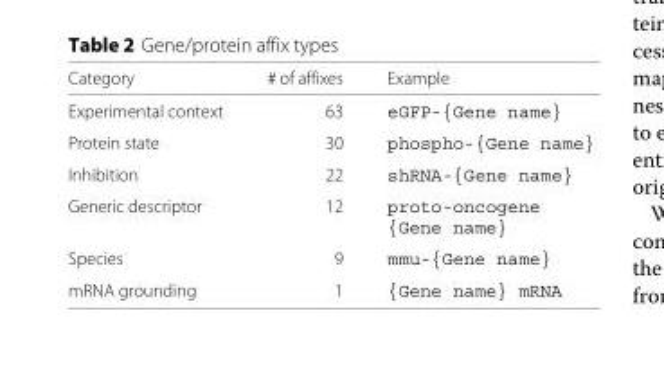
<table><thead><tr><td>Category</td><td># of affixes</td><td>Example</td></tr></thead><tbody><tr><td>Experimental context</td><td>63</td><td>eGFP-{Gene name}</td></tr><tr><td>Protein state</td><td>30</td><td>phospho-{Gene name}</td></tr><tr><td>Inhibition</td><td>22</td><td>shRNA-{Gene name}</td></tr><tr><td>Generic descriptor</td><td>12</td><td>proto-oncogene {Gene name}</td></tr><tr><td>Species</td><td>9</td><td>mmu-{Gene name}</td></tr><tr><td>mRNA grounding</td><td>1</td><td>{Gene name} mRNA</td></tr></tbody></table>